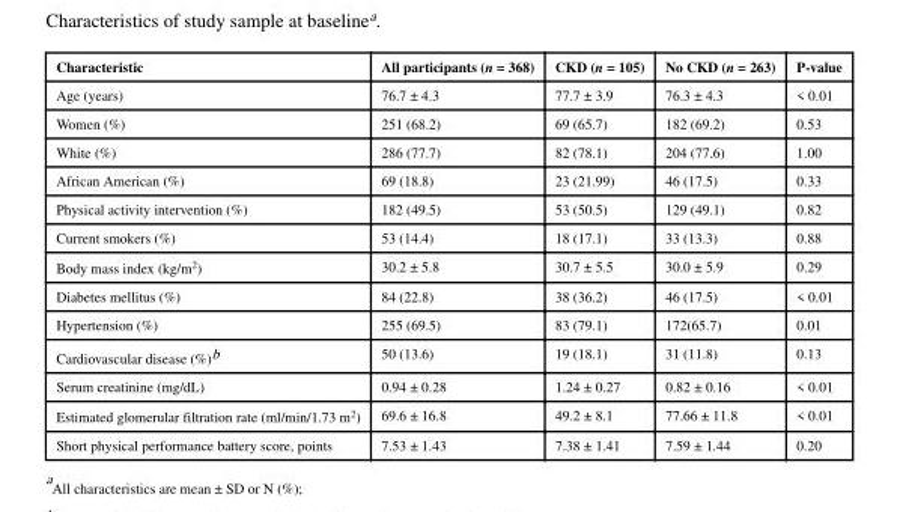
<table><thead><tr><td>Characteristic</td><td>All participants (n = 368)</td><td>CKD (n = 105)</td><td>No CKD (n = 263)</td><td>P-value</td></tr></thead><tbody><tr><td>Age (years)</td><td>76.7 ± 4.3</td><td>77.7 ± 3.9</td><td>76.3 ± 4.3</td><td>&lt; 0.01</td></tr><tr><td>Women (%)</td><td>251 (68.2)</td><td>69 (65.7)</td><td>182 (69.2)</td><td>0.53</td></tr><tr><td>White (%)</td><td>286 (77.7)</td><td>82 (78.1)</td><td>204 (77.6)</td><td>1.00</td></tr><tr><td>African American (%)</td><td>69 (18.8)</td><td>23 (21.99)</td><td>46 (17.5)</td><td>0.33</td></tr><tr><td>Physical activity intervention (%)</td><td>182 (49.5)</td><td>53 (50.5)</td><td>129 (49.1)</td><td>0.82</td></tr><tr><td>Current smokers (%)</td><td>53 (14.4)</td><td>18 (17.1)</td><td>33 (13.3)</td><td>0.88</td></tr><tr><td>Body mass index (kg/m<sup>2</sup>)</td><td>30.2 ± 5.8</td><td>30.7 ± 5.5</td><td>30.0 ± 5.9</td><td>0.29</td></tr><tr><td>Diabetes mellitus (%)</td><td>84 (22.8)</td><td>38 (36.2)</td><td>46 (17.5)</td><td>&lt; 0.01</td></tr><tr><td>Hypertension (%)</td><td>255 (69.5)</td><td>83 (79.1)</td><td>172(65.7)</td><td>0.01</td></tr><tr><td>Cardiovascular disease (%)<sup>b</sup></td><td>50 (13.6)</td><td>19 (18.1)</td><td>31 (11.8)</td><td>0.13</td></tr><tr><td>Serum creatinine (mg/dL)</td><td>0.94 ± 0.28</td><td>1.24 ± 0.27</td><td>0.82 ± 0.16</td><td>&lt; 0.01</td></tr><tr><td>Estimated glomerular filtration rate (ml/min/1.73 m<sup>2</sup>)</td><td>69.6 ± 16.8</td><td>49.2 ± 8.1</td><td>77.66 ± 11.8</td><td>&lt; 0.01</td></tr><tr><td>Short physical performance battery score, points</td><td>7.53 ± 1.43</td><td>7.38 ± 1.41</td><td>7.59 ± 1.44</td><td>0.20</td></tr></tbody></table>